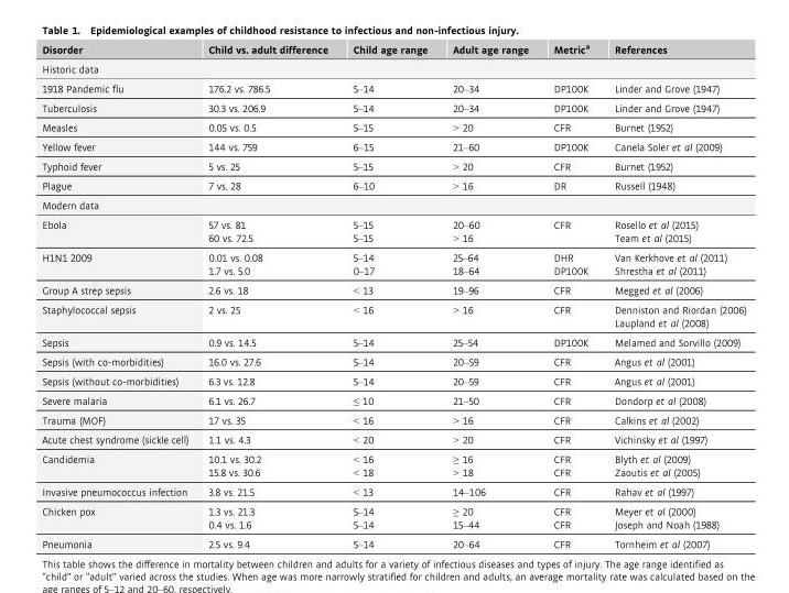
<table><thead><tr><td>Disorder</td><td>Child vs. adult difference</td><td>Child age range</td><td>Adult age range</td><td>Metric<sup>a</sup></td><td>References</td></tr></thead><tbody><tr><td colspan="6">Historic data</td></tr><tr><td>1918 Pandemic flu</td><td>176.2 vs. 786.5</td><td>5–14</td><td>20–34</td><td>DP100K</td><td>Linder and Grove (1947)</td></tr><tr><td>Tuberculosis</td><td>30.3 vs. 206.9</td><td>5–14</td><td>20–34</td><td>DP100K</td><td>Linder and Grove (1947)</td></tr><tr><td>Measles</td><td>0.05 vs. 0.5</td><td>5–15</td><td>&gt; 20</td><td>CFR</td><td>Burnet (1952)</td></tr><tr><td>Yellow fever</td><td>144 vs. 759</td><td>6–15</td><td>21–60</td><td>DP100K</td><td>Canela Soler et al (2009)</td></tr><tr><td>Typhoid fever</td><td>5 vs. 25</td><td>5–15</td><td>&gt; 20</td><td>CFR</td><td>Burnet (1952)</td></tr><tr><td>Plague</td><td>7 vs. 28</td><td>6–10</td><td>&gt; 16</td><td>DR</td><td>Russell (1948)</td></tr><tr><td colspan="6">Modern data</td></tr><tr><td>Ebola</td><td>57 vs. 81 60 vs. 72.5</td><td>5–15 5–15</td><td>20–60 &gt; 16</td><td>CFR</td><td>Rosello et al (2015) Team et al (2015)</td></tr><tr><td>H1N1 2009</td><td>0.01 vs. 0.08 1.7 vs. 5.0</td><td>5–14 0–17</td><td>25–64 18–64</td><td>DHR DP100K</td><td>Van Kerkhove et al (2011) Shrestha et al (2011)</td></tr><tr><td>Group A strep sepsis</td><td>2.6 vs. 18</td><td>&lt; 13</td><td>19–96</td><td>CFR</td><td>Megged et al (2006)</td></tr><tr><td>Staphylococcal sepsis</td><td>2 vs. 25</td><td>&lt; 16</td><td>&gt; 16</td><td>CFR</td><td>Denniston and Riordan (2006) Laupland et al (2008)</td></tr><tr><td>Sepsis</td><td>0.9 vs. 14.5</td><td>5–14</td><td>25–54</td><td>DP100K</td><td>Melamed and Sorvillo (2009)</td></tr><tr><td>Sepsis (with co-morbidities)</td><td>16.0 vs. 27.6</td><td>5–14</td><td>20–59</td><td>CFR</td><td>Angus et al (2001)</td></tr><tr><td>Sepsis (without co-morbidities)</td><td>6.3 vs. 12.8</td><td>5–14</td><td>20–59</td><td>CFR</td><td>Angus et al (2001)</td></tr><tr><td>Severe malaria</td><td>6.1 vs. 26.7</td><td>≤ 10</td><td>21–50</td><td>CFR</td><td>Dondorp et al (2008)</td></tr><tr><td>Trauma (MOF)</td><td>17 vs. 35</td><td>&lt; 16</td><td>&gt; 16</td><td>CFR</td><td>Calkins et al (2002)</td></tr><tr><td>Acute chest syndrome (sickle cell)</td><td>1.1 vs. 4.3</td><td>&lt; 20</td><td>&gt; 20</td><td>CFR</td><td>Vichinsky et al (1997)</td></tr><tr><td>Candidemia</td><td>10.1 vs. 30.2 15.8 vs. 30.6</td><td>&lt; 16 &lt; 18</td><td>≥ 16 &gt; 18</td><td>CFR CFR</td><td>Blyth et al (2009) Zaoutis et al (2005)</td></tr><tr><td>Invasive pneumococcus infection</td><td>3.8 vs. 21.5</td><td>&lt; 13</td><td>14–106</td><td>CFR</td><td>Rahav et al (1997)</td></tr><tr><td>Chicken pox</td><td>1.3 vs. 21.3 0.4 vs. 1.6</td><td>5–14 5–14</td><td>≥ 20 15–44</td><td>CFR CFR</td><td>Meyer et al (2000) Joseph and Noah (1988)</td></tr><tr><td>Pneumonia</td><td>2.5 vs. 9.4</td><td>5–14</td><td>20–64</td><td>CFR</td><td>Tornheim et al (2007)</td></tr></tbody></table>